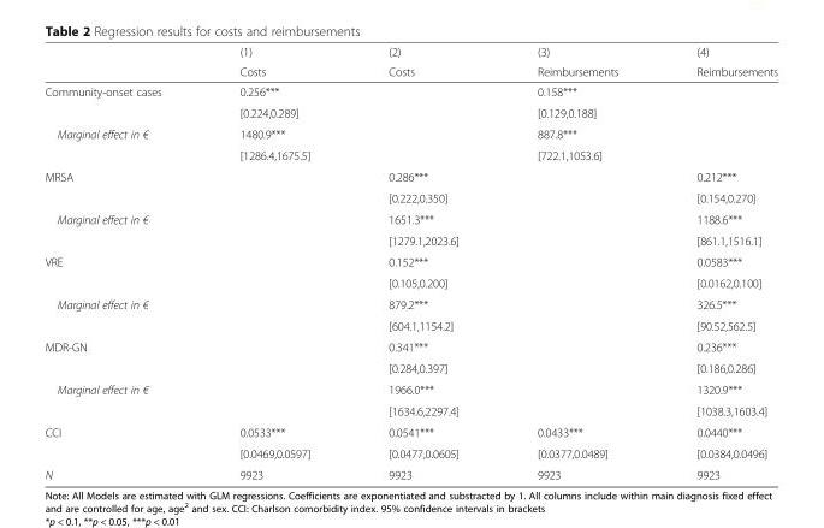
<table><thead><tr><td rowspan="2"></td><td rowspan="2">(1) Costs</td><td rowspan="2">(2) Costs</td><td rowspan="2">(3) Reimbursements</td><td rowspan="2">(4) Reimbursements</td></tr><tr></tr></thead><tbody><tr><td rowspan="2">Community-onset cases</td><td>0.256***</td><td></td><td>0.158***</td><td></td></tr><tr><td>[0.224,0.289]</td><td></td><td>[0.129,0.188]</td><td></td></tr><tr><td rowspan="2">Marginal effect in €</td><td>1480.9***</td><td></td><td>887.8***</td><td></td></tr><tr><td>[1286.4,1675.5]</td><td></td><td>[722.1,1053.6]</td><td></td></tr><tr><td rowspan="2">MRSA</td><td></td><td>0.286***</td><td></td><td>0.212***</td></tr><tr><td></td><td>[0.222,0.350]</td><td></td><td>[0.154,0.270]</td></tr><tr><td rowspan="2">Marginal effect in €</td><td></td><td>1651.3***</td><td></td><td>1188.6***</td></tr><tr><td></td><td>[1279.1,2023.6]</td><td></td><td>[861.1,1516.1]</td></tr><tr><td rowspan="2">VRE</td><td></td><td>0.152***</td><td></td><td>0.0583***</td></tr><tr><td></td><td>[0.105,0.200]</td><td></td><td>[0.0162,0.100]</td></tr><tr><td rowspan="2">Marginal effect in €</td><td></td><td>879.2***</td><td></td><td>326.5***</td></tr><tr><td></td><td>[604.1,1154.2]</td><td></td><td>[90.52,562.5]</td></tr><tr><td rowspan="2">MDR-GN</td><td></td><td>0.341***</td><td></td><td>0.236***</td></tr><tr><td></td><td>[0.284,0.397]</td><td></td><td>[0.186,0.286]</td></tr><tr><td rowspan="2">Marginal effect in €</td><td></td><td>1966.0***</td><td></td><td>1320.9***</td></tr><tr><td></td><td>[1634.6,2297.4]</td><td></td><td>[1038.3,1603.4]</td></tr><tr><td rowspan="2">CCI</td><td>0.0533***</td><td>0.0541***</td><td>0.0433***</td><td>0.0440***</td></tr><tr><td>[0.0469,0.0597]</td><td>[0.0477,0.0605]</td><td>[0.0377,0.0489]</td><td>[0.0384,0.0496]</td></tr><tr><td>N</td><td>9923</td><td>9923</td><td>9923</td><td>9923</td></tr></tbody></table>